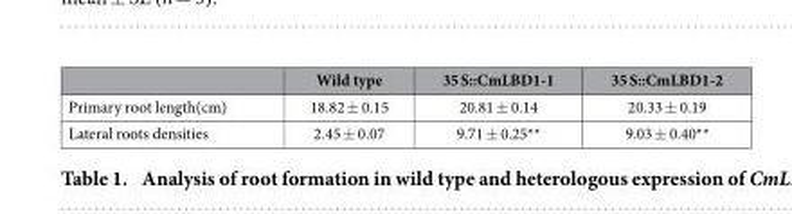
<table><thead><tr><td></td><td>Wild type</td><td>35 S::CmLBD1-1</td><td>35 S::CmLBD1-2</td></tr></thead><tbody><tr><td>Primary root length(cm)</td><td>18.82 ± 0.15</td><td>20.81 ± 0.14</td><td>20.33 ± 0.19</td></tr><tr><td>Lateral roots densities</td><td>2.45 ± 0.07</td><td>9.71 ± 0.25**</td><td>9.03 ± 0.40**</td></tr></tbody></table>